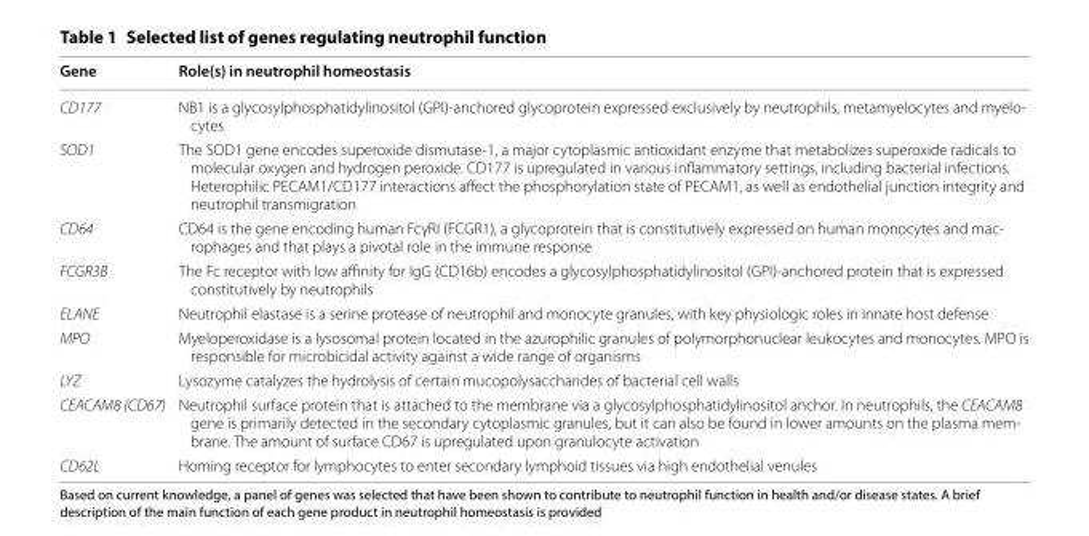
<table><thead><tr><td>Gene</td><td>Role(s) in neutrophil homeostasis</td></tr></thead><tbody><tr><td>CD177</td><td>NB1 is a glycosylphosphatidylinositol (GPI)-anchored glycoprotein expressed exclusively by neutrophils, metamyelocytes and myelo- cytes</td></tr><tr><td>SOD1</td><td>The SOD1 gene encodes superoxide dismutase-1, a major cytoplasmic antioxidant enzyme that metabolizes superoxide radicals to molecular oxygen and hydrogen peroxide. CD177 is upregulated in various inflammatory settings, including bacterial infections. Heterophilic PECAM1/CD177 interactions affect the phosphorylation state of PECAM1, as well as endothelial junction integrity and neutrophil transmigration</td></tr><tr><td>CD64</td><td>CD64 is the gene encoding human FcγRI (FCGR1), a glycoprotein that is constitutively expressed on human monocytes and mac- rophages and that plays a pivotal role in the immune response</td></tr><tr><td>FCGR3B</td><td>The Fc receptor with low affinity for IgG (CD16b) encodes a glycosylphosphatidylinositol (GPI)-anchored protein that is expressed constitutively by neutrophils</td></tr><tr><td>ELANE</td><td>Neutrophil elastase is a serine protease of neutrophil and monocyte granules, with key physiologic roles in innate host defense</td></tr><tr><td>MPO</td><td>Myeloperoxidase is a lysosomal protein located in the azurophilic granules of polymorphonuclear leukocytes and monocytes. MPO is responsible for microbicidal activity against a wide range of organisms</td></tr><tr><td>LYZ</td><td>Lysozyme catalyzes the hydrolysis of certain mucopolysaccharides of bacterial cell walls</td></tr><tr><td>CEACAM8 (CD67)</td><td>Neutrophil surface protein that is attached to the membrane via a glycosylphosphatidylinositol anchor. In neutrophils, the CEACAM8 gene is primarily detected in the secondary cytoplasmic granules, but it can also be found in lower amounts on the plasma mem- brane. The amount of surface CD67 is upregulated upon granulocyte activation</td></tr><tr><td>CD62L</td><td>Homing receptor for lymphocytes to enter secondary lymphoid tissues via high endothelial venules</td></tr></tbody></table>